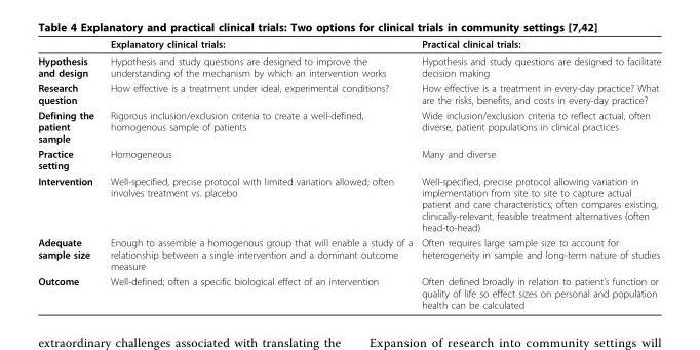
<table><thead><tr><td></td><td>Explanatory clinical trials:</td><td>Practical clinical trials:</td></tr></thead><tbody><tr><td>Hypothesis and design</td><td>Hypothesis and study questions are designed to improve the understanding of the mechanism by which an intervention works</td><td>Hypothesis and study questions are designed to facilitate decision making</td></tr><tr><td>Research question</td><td>How effective is a treatment under ideal, experimental conditions?</td><td>How effective is a treatment in every-day practice? What are the risks, benefits, and costs in every-day practice?</td></tr><tr><td>Defining the patient sample</td><td>Rigorous inclusion/exclusion criteria to create a well-defined, homogenous sample of patients</td><td>Wide inclusion/exclusion criteria to reflect actual, often diverse, patient populations in clinical practices</td></tr><tr><td>Practice setting</td><td>Homogeneous</td><td>Many and diverse</td></tr><tr><td>Intervention</td><td>Well-specified, precise protocol with limited variation allowed; often involves treatment vs. placebo</td><td>Well-specified, precise protocol allowing variation in implementation from site to site to capture actual patient and care characteristics; often compares existing, clinically-relevant, feasible treatment alternatives (often head-to-head)</td></tr><tr><td>Adequate sample size</td><td>Enough to assemble a homogenous group that will enable a study of a relationship between a single intervention and a dominant outcome measure</td><td>Often requires large sample size to account for heterogeneity in sample and long-term nature of studies</td></tr><tr><td>Outcome</td><td>Well-defined; often a specific biological effect of an intervention</td><td>Often defined broadly in relation to patient’s function or quality of life so effect sizes on personal and population health can be calculated</td></tr></tbody></table>